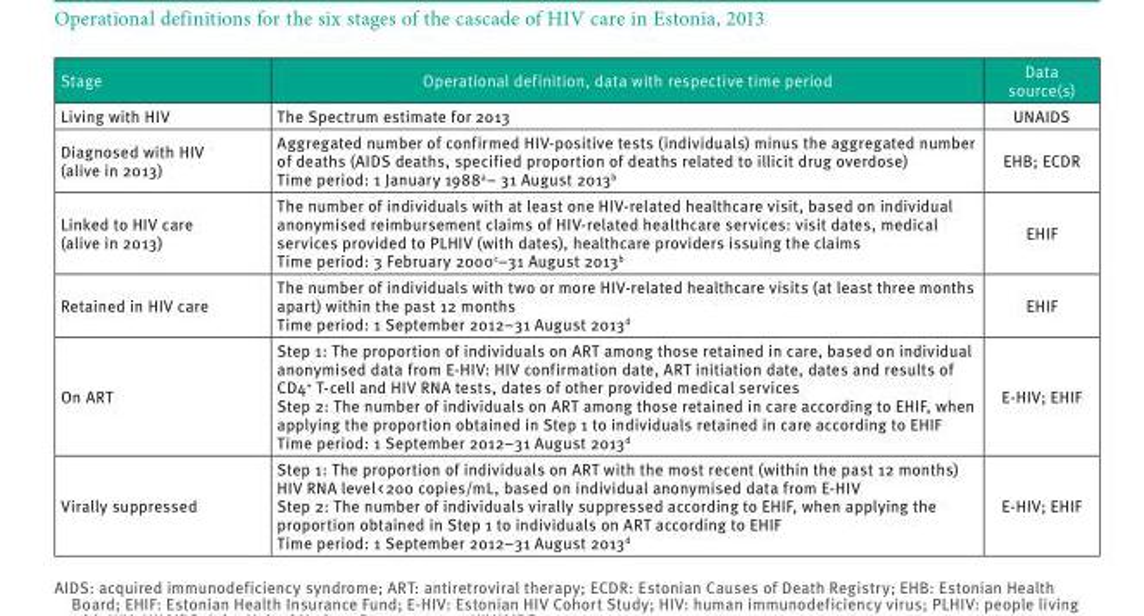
<table><thead><tr><td>Stage</td><td>Operational definition, data with respective time period</td><td>Data source(s)</td></tr></thead><tbody><tr><td>Living with HIV</td><td>The Spectrum estimate for 2013</td><td>UNAIDS</td></tr><tr><td>Diagnosed with HIV (alive in 2013)</td><td>Aggregated number of confirmed HIV-positive tests (individuals) minus the aggregated number of deaths (AIDS deaths, specified proportion of deaths related to illicit drug overdose) Time period: 1 January 1988<sup>a</sup>– 31 August 2013<sup>b</sup></td><td>EHB; ECDR</td></tr><tr><td>Linked to HIV care (alive in 2013)</td><td>The number of individuals with at least one HIV-related healthcare visit, based on individual anonymised reimbursement claims of HIV-related healthcare services: visit dates, medical services provided to PLHIV (with dates), healthcare providers issuing the claims Time period: 3 February 2000<sup>c</sup>–31 August 2013<sup>b</sup></td><td>EHIF</td></tr><tr><td>Retained in HIV care</td><td>The number of individuals with two or more HIV-related healthcare visits (at least three months apart) within the past 12 months Time period: 1 September 2012–31 August 2013<sup>d</sup></td><td>EHIF</td></tr><tr><td>On ART</td><td>Step 1: The proportion of individuals on ART among those retained in care, based on individual anonymised data from E-HIV: HIV confirmation date, ART initiation date, dates and results of CD4<sup>+</sup> T-cell and HIV RNA tests, dates of other provided medical services Step 2: The number of individuals on ART among those retained in care according to EHIF, when applying the proportion obtained in Step 1 to individuals retained in care according to EHIF Time period: 1 September 2012–31 August 2013<sup>d</sup></td><td>E-HIV; EHIF</td></tr><tr><td>Virally suppressed</td><td>Step 1: The proportion of individuals on ART with the most recent (within the past 12 months) HIV RNA level &lt; 200 copies/mL, based on individual anonymised data from E-HIV Step 2: The number of individuals virally suppressed according to EHIF, when applying the proportion obtained in Step 1 to individuals on ART according to EHIF Time period: 1 September 2012–31 August 2013<sup>d</sup></td><td>E-HIV; EHIF</td></tr></tbody></table>